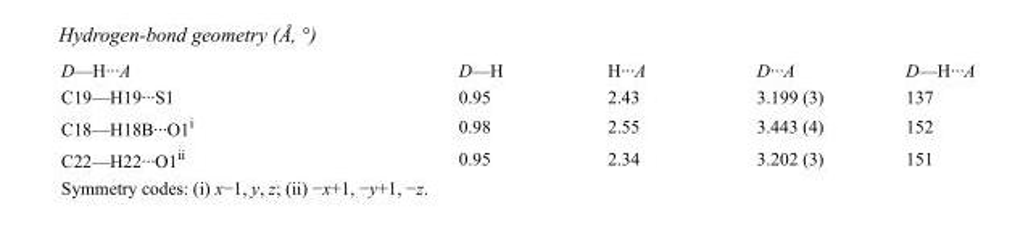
<table><tbody><tr><td>D—H···A</td><td>D—H</td><td>H···A</td><td>D···A</td><td>D—H···A</td></tr><tr><td>C19—H19···S1</td><td>0.95</td><td>2.43</td><td>3.199 (3)</td><td>137</td></tr><tr><td>C18—H18B···O1<sup>i</sup></td><td>0.98</td><td>2.55</td><td>3.443 (4)</td><td>152</td></tr><tr><td>C22—H22···O1<sup>ii</sup></td><td>0.95</td><td>2.34</td><td>3.202 (3)</td><td>151</td></tr></tbody></table>